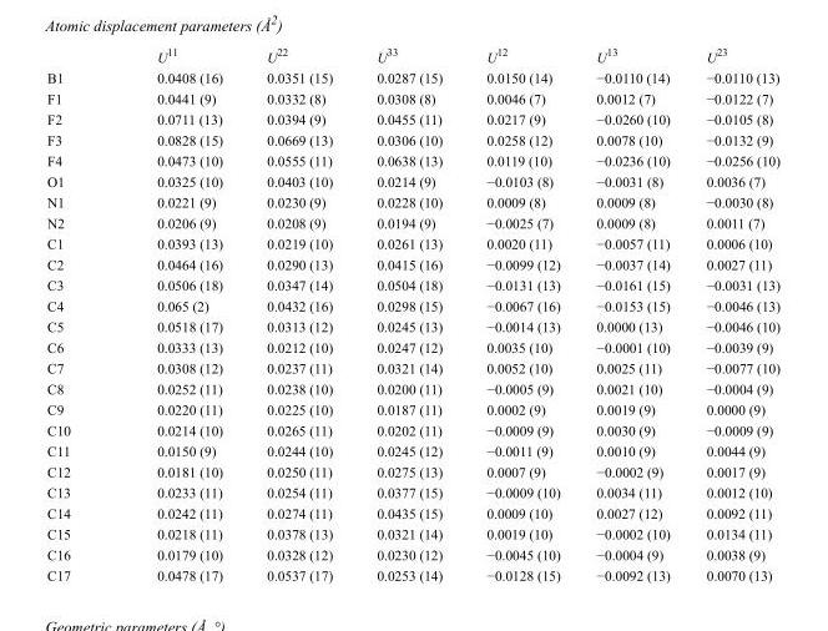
<table><thead><tr><td></td><td>U<sup>11</sup></td><td>U<sup>22</sup></td><td>U<sup>33</sup></td><td>U<sup>12</sup></td><td>U<sup>13</sup></td><td>U<sup>23</sup></td></tr></thead><tbody><tr><td>B1</td><td>0.0408 (16)</td><td>0.0351 (15)</td><td>0.0287 (15)</td><td>0.0150 (14)</td><td>−0.0110 (14)</td><td>−0.0110 (13)</td></tr><tr><td>F1</td><td>0.0441 (9)</td><td>0.0332 (8)</td><td>0.0308 (8)</td><td>0.0046 (7)</td><td>0.0012 (7)</td><td>−0.0122 (7)</td></tr><tr><td>F2</td><td>0.0711 (13)</td><td>0.0394 (9)</td><td>0.0455 (11)</td><td>0.0217 (9)</td><td>−0.0260 (10)</td><td>−0.0105 (8)</td></tr><tr><td>F3</td><td>0.0828 (15)</td><td>0.0669 (13)</td><td>0.0306 (10)</td><td>0.0258 (12)</td><td>0.0078 (10)</td><td>−0.0132 (9)</td></tr><tr><td>F4</td><td>0.0473 (10)</td><td>0.0555 (11)</td><td>0.0638 (13)</td><td>0.0119 (10)</td><td>−0.0236 (10)</td><td>−0.0256 (10)</td></tr><tr><td>O1</td><td>0.0325 (10)</td><td>0.0403 (10)</td><td>0.0214 (9)</td><td>−0.0103 (8)</td><td>−0.0031 (8)</td><td>0.0036 (7)</td></tr><tr><td>N1</td><td>0.0221 (9)</td><td>0.0230 (9)</td><td>0.0228 (10)</td><td>0.0009 (8)</td><td>0.0009 (8)</td><td>−0.0030 (8)</td></tr><tr><td>N2</td><td>0.0206 (9)</td><td>0.0208 (9)</td><td>0.0194 (9)</td><td>−0.0025 (7)</td><td>0.0009 (8)</td><td>0.0011 (7)</td></tr><tr><td>C1</td><td>0.0393 (13)</td><td>0.0219 (10)</td><td>0.0261 (13)</td><td>0.0020 (11)</td><td>−0.0057 (11)</td><td>0.0006 (10)</td></tr><tr><td>C2</td><td>0.0464 (16)</td><td>0.0290 (13)</td><td>0.0415 (16)</td><td>−0.0099 (12)</td><td>−0.0037 (14)</td><td>0.0027 (11)</td></tr><tr><td>C3</td><td>0.0506 (18)</td><td>0.0347 (14)</td><td>0.0504 (18)</td><td>−0.0131 (13)</td><td>−0.0161 (15)</td><td>−0.0031 (13)</td></tr><tr><td>C4</td><td>0.065 (2)</td><td>0.0432 (16)</td><td>0.0298 (15)</td><td>−0.0067 (16)</td><td>−0.0153 (15)</td><td>−0.0046 (13)</td></tr><tr><td>C5</td><td>0.0518 (17)</td><td>0.0313 (12)</td><td>0.0245 (13)</td><td>−0.0014 (13)</td><td>0.0000 (13)</td><td>−0.0046 (10)</td></tr><tr><td>C6</td><td>0.0333 (13)</td><td>0.0212 (10)</td><td>0.0247 (12)</td><td>0.0035 (10)</td><td>−0.0001 (10)</td><td>−0.0039 (9)</td></tr><tr><td>C7</td><td>0.0308 (12)</td><td>0.0237 (11)</td><td>0.0321 (14)</td><td>0.0052 (10)</td><td>0.0025 (11)</td><td>−0.0077 (10)</td></tr><tr><td>C8</td><td>0.0252 (11)</td><td>0.0238 (10)</td><td>0.0200 (11)</td><td>−0.0005 (9)</td><td>0.0021 (10)</td><td>−0.0004 (9)</td></tr><tr><td>C9</td><td>0.0220 (11)</td><td>0.0225 (10)</td><td>0.0187 (11)</td><td>0.0002 (9)</td><td>0.0019 (9)</td><td>0.0000 (9)</td></tr><tr><td>C10</td><td>0.0214 (10)</td><td>0.0265 (11)</td><td>0.0202 (11)</td><td>−0.0009 (9)</td><td>0.0030 (9)</td><td>−0.0009 (9)</td></tr><tr><td>C11</td><td>0.0150 (9)</td><td>0.0244 (10)</td><td>0.0245 (12)</td><td>−0.0011 (9)</td><td>0.0010 (9)</td><td>0.0044 (9)</td></tr><tr><td>C12</td><td>0.0181 (10)</td><td>0.0250 (11)</td><td>0.0275 (13)</td><td>0.0007 (9)</td><td>−0.0002 (9)</td><td>0.0017 (9)</td></tr><tr><td>C13</td><td>0.0233 (11)</td><td>0.0254 (11)</td><td>0.0377 (15)</td><td>−0.0009 (10)</td><td>0.0034 (11)</td><td>0.0012 (10)</td></tr><tr><td>C14</td><td>0.0242 (11)</td><td>0.0274 (11)</td><td>0.0435 (15)</td><td>0.0009 (10)</td><td>0.0027 (12)</td><td>0.0092 (11)</td></tr><tr><td>C15</td><td>0.0218 (11)</td><td>0.0378 (13)</td><td>0.0321 (14)</td><td>0.0019 (10)</td><td>−0.0002 (10)</td><td>0.0134 (11)</td></tr><tr><td>C16</td><td>0.0179 (10)</td><td>0.0328 (12)</td><td>0.0230 (12)</td><td>−0.0045 (10)</td><td>−0.0004 (9)</td><td>0.0038 (9)</td></tr><tr><td>C17</td><td>0.0478 (17)</td><td>0.0537 (17)</td><td>0.0253 (14)</td><td>−0.0128 (15)</td><td>−0.0092 (13)</td><td>0.0070 (13)</td></tr></tbody></table>